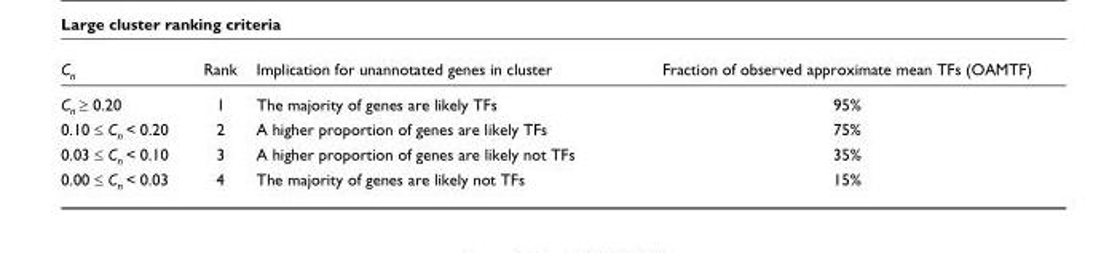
<table><thead><tr><td>C<sub>n</sub></td><td>Rank</td><td>Implication for unannotated genes in cluster</td><td>Fraction of observed approximate mean TFs (OAMTF)</td></tr></thead><tbody><tr><td>C<sub>n</sub> ≥ 0.20</td><td>1</td><td>The majority of genes are likely TFs</td><td>95%</td></tr><tr><td>0.10 ≤ C<sub>n</sub> &lt; 0.20</td><td>2</td><td>A higher proportion of genes are likely TFs</td><td>75%</td></tr><tr><td>0.03 ≤ C<sub>n</sub> &lt; 0.10</td><td>3</td><td>A higher proportion of genes are likely not TFs</td><td>35%</td></tr><tr><td>0.00 ≤ C<sub>n</sub> &lt; 0.03</td><td>4</td><td>The majority of genes are likely not TFs</td><td>15%</td></tr></tbody></table>